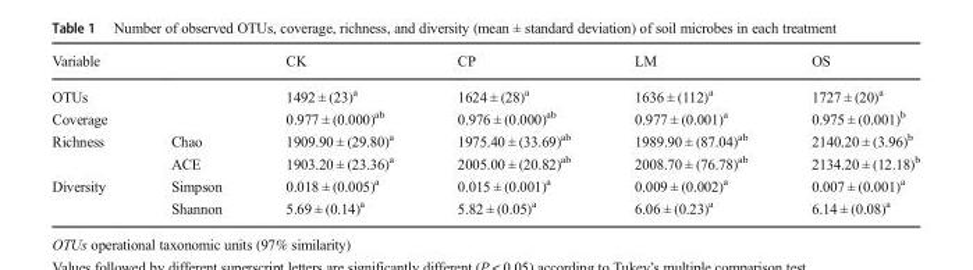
<table><thead><tr><td>Variable</td><td></td><td>CK</td><td>CP</td><td>LM</td><td>OS</td></tr></thead><tbody><tr><td>OTUs</td><td></td><td>1492 ± (23)<sup>a</sup></td><td>1624 ± (28)<sup>a</sup></td><td>1636 ± (112)<sup>a</sup></td><td>1727 ± (20)<sup>a</sup></td></tr><tr><td>Coverage</td><td></td><td>0.977 ± (0.000)<sup>ab</sup></td><td>0.976 ± (0.000)<sup>ab</sup></td><td>0.977 ± (0.001)<sup>a</sup></td><td>0.975 ± (0.001)<sup>b</sup></td></tr><tr><td rowspan="2">Richness</td><td>Chao</td><td>1909.90 ± (29.80)<sup>a</sup></td><td>1975.40 ± (33.69)<sup>ab</sup></td><td>1989.90 ± (87.04)<sup>ab</sup></td><td>2140.20 ± (3.96)<sup>b</sup></td></tr><tr><td>ACE</td><td>1903.20 ± (23.36)<sup>a</sup></td><td>2005.00 ± (20.82)<sup>ab</sup></td><td>2008.70 ± (76.78)<sup>ab</sup></td><td>2134.20 ± (12.18)<sup>b</sup></td></tr><tr><td rowspan="2">Diversity</td><td>Simpson</td><td>0.018 ± (0.005)<sup>a</sup></td><td>0.015 ± (0.001)<sup>a</sup></td><td>0.009 ± (0.002)<sup>a</sup></td><td>0.007 ± (0.001)<sup>a</sup></td></tr><tr><td>Shannon</td><td>5.69 ± (0.14)<sup>a</sup></td><td>5.82 ± (0.05)<sup>a</sup></td><td>6.06 ± (0.23)<sup>a</sup></td><td>6.14 ± (0.08)<sup>a</sup></td></tr></tbody></table>